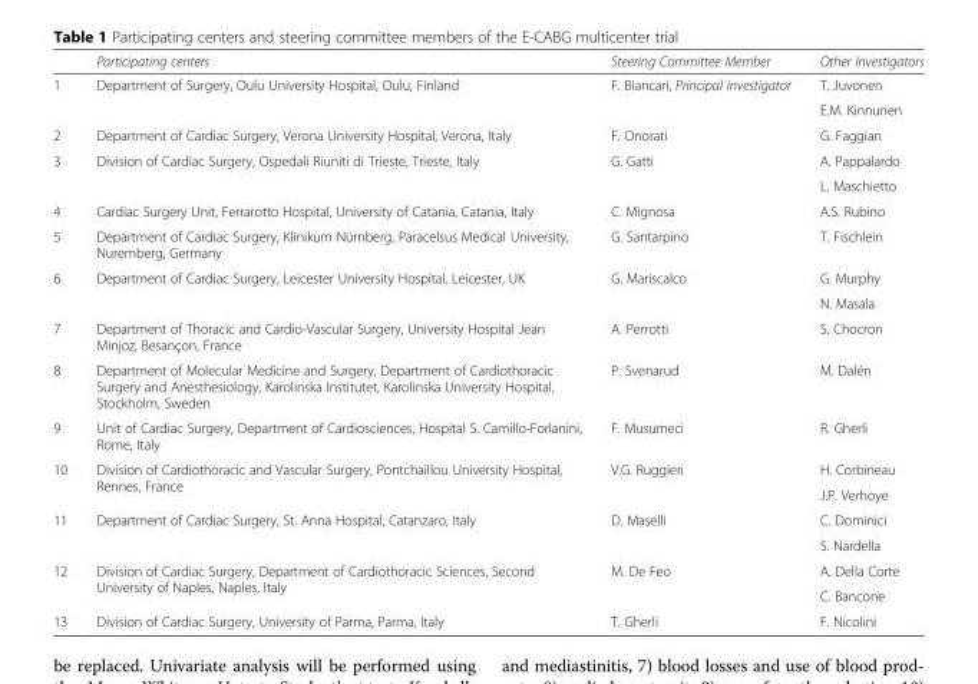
<table><thead><tr><td></td><td>Participating centers</td><td>Steering Committee Member</td><td>Other Investigators</td></tr></thead><tbody><tr><td rowspan="2">1</td><td rowspan="2">Department of Surgery, Oulu University Hospital, Oulu, Finland</td><td rowspan="2">F. Biancari, Principal investigator</td><td>T. Juvonen</td></tr><tr><td>E.M. Kinnunen</td></tr><tr><td>2</td><td>Department of Cardiac Surgery, Verona University Hospital, Verona, Italy</td><td>F. Onorati</td><td>G. Faggian</td></tr><tr><td rowspan="2">3</td><td rowspan="2">Division of Cardiac Surgery, Ospedali Riuniti di Trieste, Trieste, Italy</td><td rowspan="2">G. Gatti</td><td>A. Pappalardo</td></tr><tr><td>L. Maschietto</td></tr><tr><td>4</td><td>Cardiac Surgery Unit, Ferrarotto Hospital, University of Catania, Catania, Italy</td><td>C. Mignosa</td><td>A.S. Rubino</td></tr><tr><td>5</td><td>Department of Cardiac Surgery, Klinikum Nürnberg, Paracelsus Medical University, Nuremberg, Germany</td><td>G. Santarpino</td><td>T. Fischlein</td></tr><tr><td rowspan="2">6</td><td rowspan="2">Department of Cardiac Surgery, Leicester University Hospital, Leicester, UK</td><td rowspan="2">G. Mariscalco</td><td>G. Murphy</td></tr><tr><td>N. Masala</td></tr><tr><td>7</td><td>Department of Thoracic and Cardio-Vascular Surgery, University Hospital Jean Minjoz, Besançon, France</td><td>A. Perrotti</td><td>S. Chocron</td></tr><tr><td>8</td><td>Department of Molecular Medicine and Surgery, Department of Cardiothoracic Surgery and Anesthesiology, Karolinska Institutet, Karolinska University Hospital, Stockholm, Sweden</td><td>P. Svenarud</td><td>M. Dalén</td></tr><tr><td>9</td><td>Unit of Cardiac Surgery, Department of Cardiosciences, Hospital S. Camillo-Forlanini, Rome, Italy</td><td>F. Musumeci</td><td>R. Gherli</td></tr><tr><td rowspan="2">10</td><td rowspan="2">Division of Cardiothoracic and Vascular Surgery, Pontchaillou University Hospital, Rennes, France</td><td rowspan="2">V.G. Ruggieri</td><td>H. Corbineau</td></tr><tr><td>J.P. Verhoye</td></tr><tr><td rowspan="2">11</td><td rowspan="2">Department of Cardiac Surgery, St. Anna Hospital, Catanzaro, Italy</td><td rowspan="2">D. Maselli</td><td>C. Dominici</td></tr><tr><td>S. Nardella</td></tr><tr><td rowspan="2">12</td><td rowspan="2">Division of Cardiac Surgery, Department of Cardiothoracic Sciences, Second University of Naples, Naples, Italy</td><td rowspan="2">M. De Feo</td><td>A. Della Corte</td></tr><tr><td>C. Bancone</td></tr><tr><td>13</td><td>Division of Cardiac Surgery, University of Parma, Parma, Italy</td><td>T. Gherli</td><td>F. Nicolini</td></tr></tbody></table>